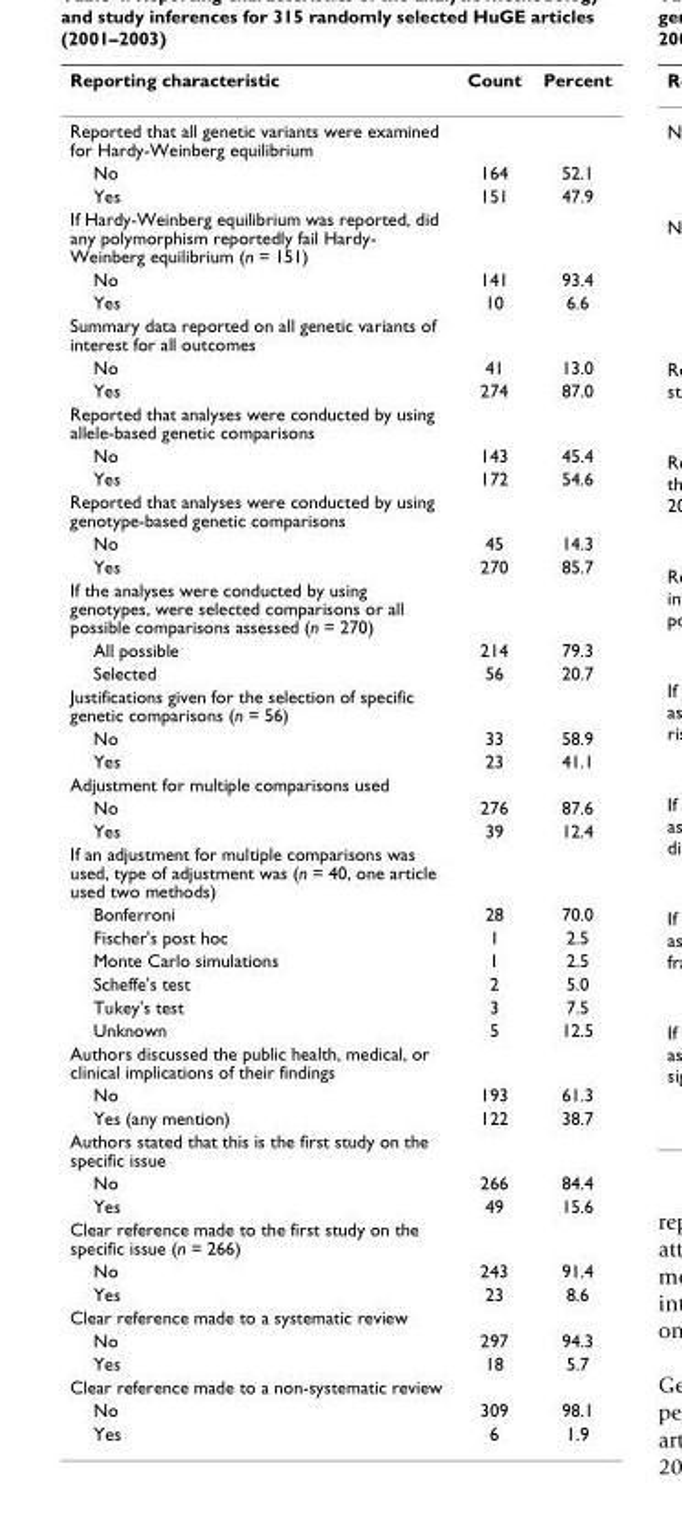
<table><thead><tr><td>Reporting characteristic</td><td>Count</td><td>Percent</td></tr></thead><tbody><tr><td colspan="3">Reported that all genetic variants were examined for Hardy-Weinberg equilibrium</td></tr><tr><td>No</td><td>164</td><td>52.1</td></tr><tr><td>Yes</td><td>151</td><td>47.9</td></tr><tr><td colspan="3">If Hardy-Weinberg equilibrium was reported, did any polymorphism reportedly fail Hardy- Weinberg equilibrium (n = 151)</td></tr><tr><td>No</td><td>141</td><td>93.4</td></tr><tr><td>Yes</td><td>10</td><td>6.6</td></tr><tr><td colspan="3">Summary data reported on all genetic variants of interest for all outcomes</td></tr><tr><td>No</td><td>41</td><td>13.0</td></tr><tr><td>Yes</td><td>274</td><td>87.0</td></tr><tr><td colspan="3">Reported that analyses were conducted by using allele-based genetic comparisons</td></tr><tr><td>No</td><td>143</td><td>45.4</td></tr><tr><td>Yes</td><td>172</td><td>54.6</td></tr><tr><td colspan="3">Reported that analyses were conducted by using genotype-based genetic comparisons</td></tr><tr><td>No</td><td>45</td><td>14.3</td></tr><tr><td>Yes</td><td>270</td><td>85.7</td></tr><tr><td colspan="3">If the analyses were conducted by using genotypes, were selected comparisons or all possible comparisons assessed (n = 270)</td></tr><tr><td>All possible</td><td>214</td><td>79.3</td></tr><tr><td>Selected</td><td>56</td><td>20.7</td></tr><tr><td colspan="3">Justifications given for the selection of specific genetic comparisons (n = 56)</td></tr><tr><td>No</td><td>33</td><td>58.9</td></tr><tr><td>Yes</td><td>23</td><td>41.1</td></tr><tr><td colspan="3">Adjustment for multiple comparisons used</td></tr><tr><td>No</td><td>276</td><td>87.6</td></tr><tr><td>Yes</td><td>39</td><td>12.4</td></tr><tr><td colspan="3">If an adjustment for multiple comparisons was used, type of adjustment was (n = 40, one article used two methods)</td></tr><tr><td>Bonferroni</td><td>28</td><td>70.0</td></tr><tr><td>Fischer&#x27;s post hoc</td><td>1</td><td>2.5</td></tr><tr><td>Monte Carlo simulations</td><td>1</td><td>2.5</td></tr><tr><td>Scheffe&#x27;s test</td><td>2</td><td>5.0</td></tr><tr><td>Tukey&#x27;s test</td><td>3</td><td>7.5</td></tr><tr><td>Unknown</td><td>5</td><td>12.5</td></tr><tr><td colspan="3">Authors discussed the public health, medical, or clinical implications of their findings</td></tr><tr><td>No</td><td>193</td><td>61.3</td></tr><tr><td>Yes (any mention)</td><td>122</td><td>38.7</td></tr><tr><td colspan="3">Authors stated that this is the first study on the specific issue</td></tr><tr><td>No</td><td>266</td><td>84.4</td></tr><tr><td>Yes</td><td>49</td><td>15.6</td></tr><tr><td colspan="3">Clear reference made to the first study on the specific issue (n = 266)</td></tr><tr><td>No</td><td>243</td><td>91.4</td></tr><tr><td>Yes</td><td>23</td><td>8.6</td></tr><tr><td colspan="3">Clear reference made to a systematic review</td></tr><tr><td>No</td><td>297</td><td>94.3</td></tr><tr><td>Yes</td><td>18</td><td>5.7</td></tr><tr><td colspan="3">Clear reference made to a non-systematic review</td></tr><tr><td>No</td><td>309</td><td>98.1</td></tr><tr><td>Yes</td><td>6</td><td>1.9</td></tr></tbody></table>